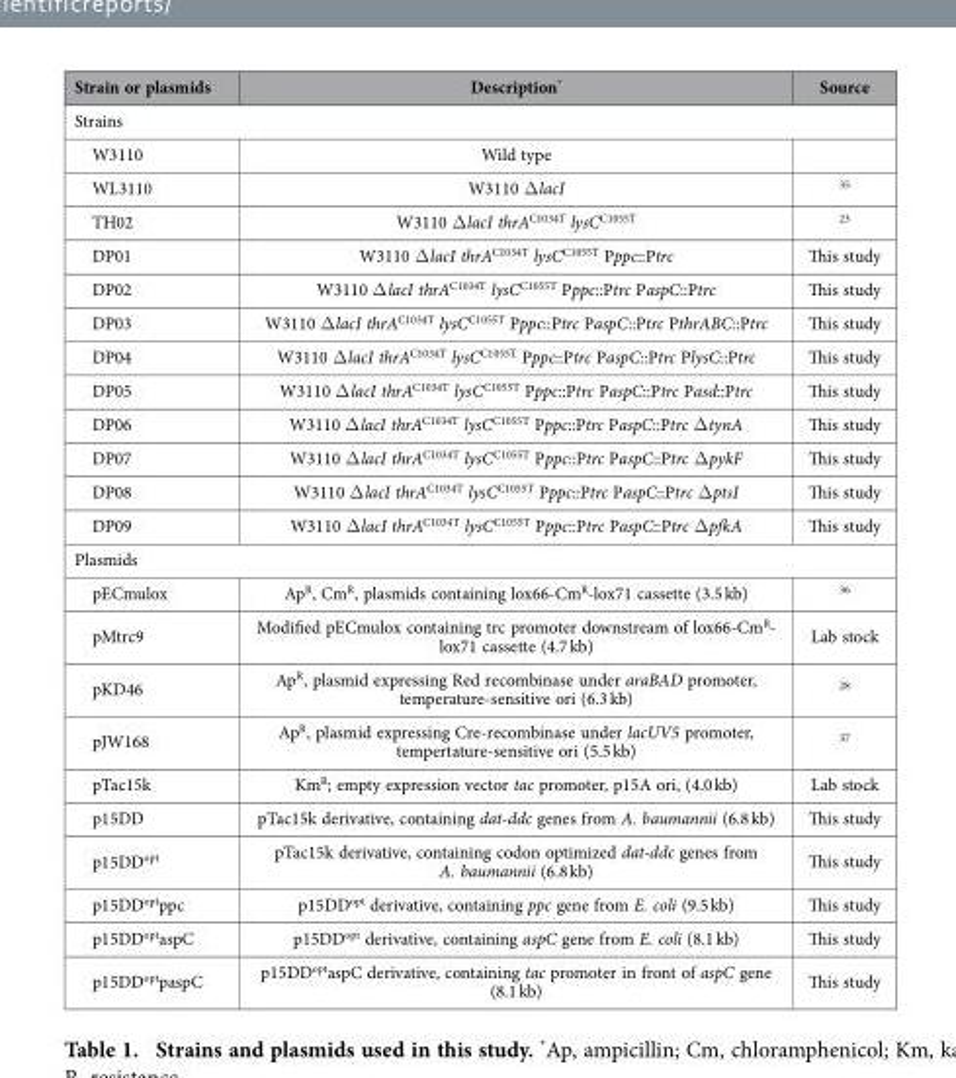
<table><thead><tr><td>Strain or plasmids</td><td>Description*</td><td>Source</td></tr></thead><tbody><tr><td colspan="3">Strains</td></tr><tr><td>W3110</td><td>Wild type</td><td></td></tr><tr><td>WL3110</td><td>W3110 Δ lacI</td><td>35</td></tr><tr><td>TH02</td><td>W3110 Δ lacI thrA<sup>C1034T</sup> lysC<sup>C1055T</sup></td><td>23</td></tr><tr><td>DP01</td><td>W3110 Δ lacI thrA<sup>C1034T</sup> lysC<sup>C1055T</sup> Pppc::Ptrc</td><td>This study</td></tr><tr><td>DP02</td><td>W3110 Δ lacI thrA<sup>C1034T</sup> lysC<sup>C1055T</sup> Pppc::Ptrc PaspC::Ptrc</td><td>This study</td></tr><tr><td>DP03</td><td>W3110 Δ lacI thrA<sup>C1034T</sup> lysC<sup>C1055T</sup> Pppc::Ptrc PaspC::Ptrc PthrABC::Ptrc</td><td>This study</td></tr><tr><td>DP04</td><td>W3110 Δ lacI thrA<sup>C1034T</sup> lysC<sup>C1055T</sup> Pppc::Ptrc PaspC::Ptrc PlysC::Ptrc</td><td>This study</td></tr><tr><td>DP05</td><td>W3110 Δ lacI thrA<sup>C1034T</sup> lysC<sup>C1055T</sup> Pppc::Ptrc PaspC::Ptrc Pasd::Ptrc</td><td>This study</td></tr><tr><td>DP06</td><td>W3110 Δ lacI thrA<sup>C1034T</sup> lysC<sup>C1055T</sup> Pppc::Ptrc PaspC::Ptrc Δ tynA</td><td>This study</td></tr><tr><td>DP07</td><td>W3110 Δ lacI thrA<sup>C1034T</sup> lysC<sup>C1055T</sup> Pppc::Ptrc PaspC::Ptrc Δ pykF</td><td>This study</td></tr><tr><td>DP08</td><td>W3110 Δ lacI thrA<sup>C1034T</sup> lysC<sup>C1055T</sup> Pppc::Ptrc PaspC::Ptrc Δ ptsI</td><td>This study</td></tr><tr><td>DP09</td><td>W3110 Δ lacI thrA<sup>C1034T</sup> lysC<sup>C1055T</sup> Pppc::Ptrc PaspC::Ptrc Δ pfkA</td><td>This study</td></tr><tr><td colspan="3">Plasmids</td></tr><tr><td>pECmulox</td><td>Ap<sup>R</sup>, Cm<sup>R</sup>, plasmids containing lox66-Cm<sup>R</sup>-lox71 cassette (3.5 kb)</td><td>36</td></tr><tr><td>pMtrc9</td><td>Modified pECmulox containing trc promoter downstream of lox66-Cm<sup>R</sup>- lox71 cassette (4.7 kb)</td><td>Lab stock</td></tr><tr><td>pKD46</td><td>Ap<sup>R</sup>, plasmid expressing Red recombinase under araBAD promoter, temperature-sensitive ori (6.3 kb)</td><td>28</td></tr><tr><td>pJW168</td><td>Ap<sup>R</sup>, plasmid expressing Cre-recombinase under lacUV5 promoter, tempertature-sensitive ori (5.5 kb)</td><td>37</td></tr><tr><td>pTac15k</td><td>Km<sup>R</sup>; empty expression vector tac promoter, p15A ori, (4.0 kb)</td><td>Lab stock</td></tr><tr><td>p15DD</td><td>pTac15k derivative, containing dat-ddc genes from A. baumannii (6.8 kb)</td><td>This study</td></tr><tr><td>p15DD<sup>opt</sup></td><td>pTac15k derivative, containing codon optimized dat-ddc genes from A. baumannii (6.8 kb)</td><td>This study</td></tr><tr><td>p15DD<sup>opt</sup>ppc</td><td>p15DD<sup>opt</sup> derivative, containing ppc gene from E. coli (9.5 kb)</td><td>This study</td></tr><tr><td>p15DD<sup>opt</sup>aspC</td><td>p15DD<sup>opt</sup> derivative, containing aspC gene from E. coli (8.1 kb)</td><td>This study</td></tr><tr><td>p15DD<sup>opt</sup>paspC</td><td>p15DD<sup>opt</sup>aspC derivative, containing tac promoter in front of aspC gene (8.1 kb)</td><td>This study</td></tr></tbody></table>